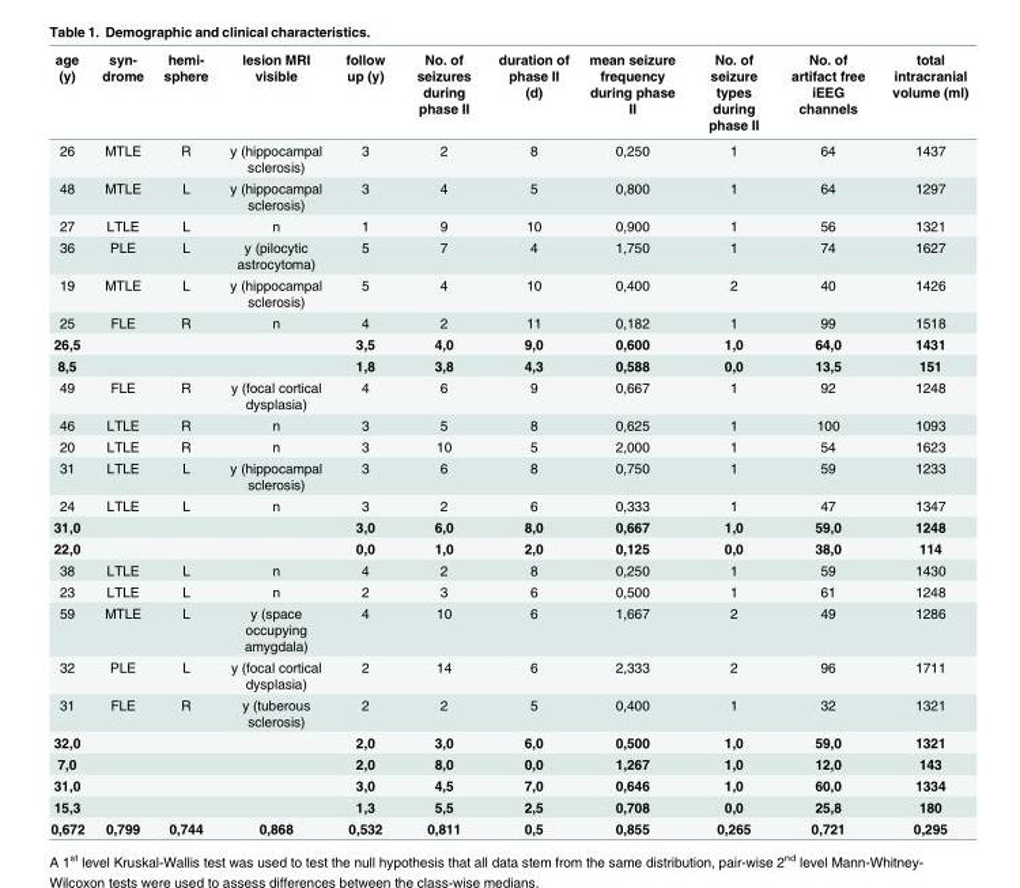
<table><thead><tr><td>age (y)</td><td>syn- drome</td><td>hemi- sphere</td><td>lesion MRI visible</td><td>follow up (y)</td><td>No. of seizures during phase II</td><td>duration of phase II (d)</td><td>mean seizure frequency during phase II</td><td>No. of seizure types during phase II</td><td>No. of artifact free iEEG channels</td><td>total intracranial volume (ml)</td></tr></thead><tbody><tr><td>26</td><td>MTLE</td><td>R</td><td>y (hippocampal sclerosis)</td><td>3</td><td>2</td><td>8</td><td>0,250</td><td>1</td><td>64</td><td>1437</td></tr><tr><td>48</td><td>MTLE</td><td>L</td><td>y (hippocampal sclerosis)</td><td>3</td><td>4</td><td>5</td><td>0,800</td><td>1</td><td>64</td><td>1297</td></tr><tr><td>27</td><td>LTLE</td><td>L</td><td>n</td><td>1</td><td>9</td><td>10</td><td>0,900</td><td>1</td><td>56</td><td>1321</td></tr><tr><td>36</td><td>PLE</td><td>L</td><td>y (pilocytic astrocytoma)</td><td>5</td><td>7</td><td>4</td><td>1,750</td><td>1</td><td>74</td><td>1627</td></tr><tr><td>19</td><td>MTLE</td><td>L</td><td>y (hippocampal sclerosis)</td><td>5</td><td>4</td><td>10</td><td>0,400</td><td>2</td><td>40</td><td>1426</td></tr><tr><td>25</td><td>FLE</td><td>R</td><td>n</td><td>4</td><td>2</td><td>11</td><td>0,182</td><td>1</td><td>99</td><td>1518</td></tr><tr><td>26,5</td><td></td><td></td><td></td><td>3,5</td><td>4,0</td><td>9,0</td><td>0,600</td><td>1,0</td><td>64,0</td><td>1431</td></tr><tr><td>8,5</td><td></td><td></td><td></td><td>1,8</td><td>3,8</td><td>4,3</td><td>0,588</td><td>0,0</td><td>13,5</td><td>151</td></tr><tr><td>49</td><td>FLE</td><td>R</td><td>y (focal cortical dysplasia)</td><td>4</td><td>6</td><td>9</td><td>0,667</td><td>1</td><td>92</td><td>1248</td></tr><tr><td>46</td><td>LTLE</td><td>R</td><td>n</td><td>3</td><td>5</td><td>8</td><td>0,625</td><td>1</td><td>100</td><td>1093</td></tr><tr><td>20</td><td>LTLE</td><td>R</td><td>n</td><td>3</td><td>10</td><td>5</td><td>2,000</td><td>1</td><td>54</td><td>1623</td></tr><tr><td>31</td><td>LTLE</td><td>L</td><td>y (hippocampal sclerosis)</td><td>3</td><td>6</td><td>8</td><td>0,750</td><td>1</td><td>59</td><td>1233</td></tr><tr><td>24</td><td>LTLE</td><td>L</td><td>n</td><td>3</td><td>2</td><td>6</td><td>0,333</td><td>1</td><td>47</td><td>1347</td></tr><tr><td>31,0</td><td></td><td></td><td></td><td>3,0</td><td>6,0</td><td>8,0</td><td>0,667</td><td>1,0</td><td>59,0</td><td>1248</td></tr><tr><td>22,0</td><td></td><td></td><td></td><td>0,0</td><td>1,0</td><td>2,0</td><td>0,125</td><td>0,0</td><td>38,0</td><td>114</td></tr><tr><td>38</td><td>LTLE</td><td>L</td><td>n</td><td>4</td><td>2</td><td>8</td><td>0,250</td><td>1</td><td>59</td><td>1430</td></tr><tr><td>23</td><td>LTLE</td><td>L</td><td>n</td><td>2</td><td>3</td><td>6</td><td>0,500</td><td>1</td><td>61</td><td>1248</td></tr><tr><td>59</td><td>MTLE</td><td>L</td><td>y (space occupying amygdala)</td><td>4</td><td>10</td><td>6</td><td>1,667</td><td>2</td><td>49</td><td>1286</td></tr><tr><td>32</td><td>PLE</td><td>L</td><td>y (focal cortical dysplasia)</td><td>2</td><td>14</td><td>6</td><td>2,333</td><td>2</td><td>96</td><td>1711</td></tr><tr><td>31</td><td>FLE</td><td>R</td><td>y (tuberous sclerosis)</td><td>2</td><td>2</td><td>5</td><td>0,400</td><td>1</td><td>32</td><td>1321</td></tr><tr><td>32,0</td><td></td><td></td><td></td><td>2,0</td><td>3,0</td><td>6,0</td><td>0,500</td><td>1,0</td><td>59,0</td><td>1321</td></tr><tr><td>7,0</td><td></td><td></td><td></td><td>2,0</td><td>8,0</td><td>0,0</td><td>1,267</td><td>1,0</td><td>12,0</td><td>143</td></tr><tr><td>31,0</td><td></td><td></td><td></td><td>3,0</td><td>4,5</td><td>7,0</td><td>0,646</td><td>1,0</td><td>60,0</td><td>1334</td></tr><tr><td>15,3</td><td></td><td></td><td></td><td>1,3</td><td>5,5</td><td>2,5</td><td>0,708</td><td>0,0</td><td>25,8</td><td>180</td></tr><tr><td>0,672</td><td>0,799</td><td>0,744</td><td>0,868</td><td>0,532</td><td>0,811</td><td>0,5</td><td>0,855</td><td>0,265</td><td>0,721</td><td>0,295</td></tr></tbody></table>